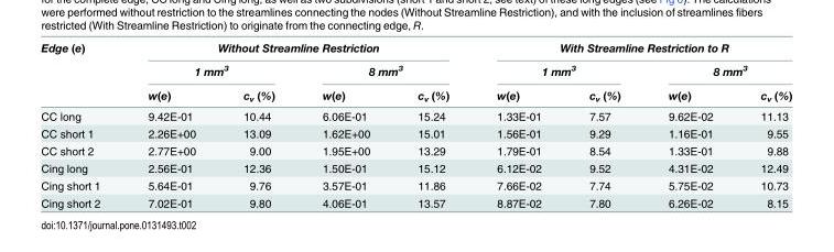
<table><thead><tr><td rowspan="3">Edge (e)</td><td colspan="4">Without Streamline Restriction</td><td colspan="4">With Streamline Restriction to R</td></tr><tr><td colspan="2">1 mm<sup>3</sup></td><td colspan="2">8 mm<sup>3</sup></td><td colspan="2">1 mm<sup>3</sup></td><td colspan="2">8 mm<sup>3</sup></td></tr><tr><td>w(e)</td><td>c<sub>v</sub> (%)</td><td>w(e)</td><td>c<sub>v</sub> (%)</td><td>w(e)</td><td>c<sub>v</sub> (%)</td><td>w(e)</td><td>c<sub>v</sub> (%)</td></tr></thead><tbody><tr><td>CC long</td><td>9.42E-01</td><td>10.44</td><td>6.06E-01</td><td>15.24</td><td>1.33E-01</td><td>7.57</td><td>9.62E-02</td><td>11.13</td></tr><tr><td>CC short 1</td><td>2.26E+00</td><td>13.09</td><td>1.62E+00</td><td>15.01</td><td>1.56E-01</td><td>9.29</td><td>1.16E-01</td><td>9.55</td></tr><tr><td>CC short 2</td><td>2.77E+00</td><td>9.00</td><td>1.95E+00</td><td>13.29</td><td>1.79E-01</td><td>8.54</td><td>1.33E-01</td><td>9.88</td></tr><tr><td>Cing long</td><td>2.56E-01</td><td>12.36</td><td>1.50E-01</td><td>15.12</td><td>6.12E-02</td><td>9.52</td><td>4.31E-02</td><td>12.49</td></tr><tr><td>Cing short 1</td><td>5.64E-01</td><td>9.76</td><td>3.57E-01</td><td>11.86</td><td>7.66E-02</td><td>7.74</td><td>5.75E-02</td><td>10.73</td></tr><tr><td>Cing short 2</td><td>7.02E-01</td><td>9.80</td><td>4.06E-01</td><td>13.57</td><td>8.87E-02</td><td>7.80</td><td>6.26E-02</td><td>8.15</td></tr></tbody></table>